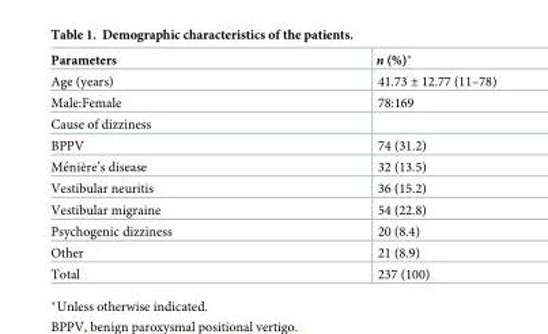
<table><thead><tr><td>Parameters</td><td>n (%)*</td></tr></thead><tbody><tr><td>Age (years)</td><td>41.73 ± 12.77 (11–78)</td></tr><tr><td>Male:Female</td><td>78:169</td></tr><tr><td colspan="2">Cause of dizziness</td></tr><tr><td>BPPV</td><td>74 (31.2)</td></tr><tr><td>Me´nière’s disease</td><td>32 (13.5)</td></tr><tr><td>Vestibular neuritis</td><td>36 (15.2)</td></tr><tr><td>Vestibular migraine</td><td>54 (22.8)</td></tr><tr><td>Psychogenic dizziness</td><td>20 (8.4)</td></tr><tr><td>Other</td><td>21 (8.9)</td></tr><tr><td>Total</td><td>237 (100)</td></tr></tbody></table>